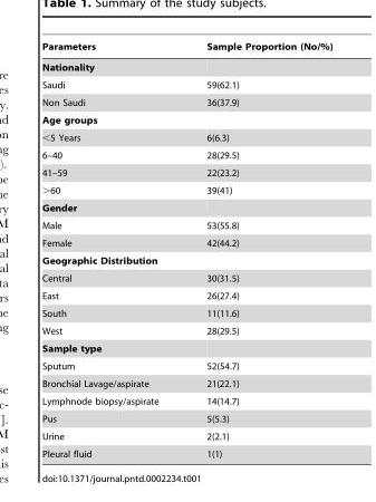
<table><thead><tr><td>Parameters</td><td>Sample Proportion (No/%)</td></tr></thead><tbody><tr><td colspan="2">Nationality</td></tr><tr><td>Saudi</td><td>59(62.1)</td></tr><tr><td>Non Saudi</td><td>36(37.9)</td></tr><tr><td colspan="2">Age groups</td></tr><tr><td>&lt;5 Years</td><td>6(6.3)</td></tr><tr><td>6–40</td><td>28(29.5)</td></tr><tr><td>41–59</td><td>22(23.2)</td></tr><tr><td>&gt;60</td><td>39(41)</td></tr><tr><td colspan="2">Gender</td></tr><tr><td>Male</td><td>53(55.8)</td></tr><tr><td>Female</td><td>42(44.2)</td></tr><tr><td colspan="2">Geographic Distribution</td></tr><tr><td>Central</td><td>30(31.5)</td></tr><tr><td>East</td><td>26(27.4)</td></tr><tr><td>South</td><td>11(11.6)</td></tr><tr><td>West</td><td>28(29.5)</td></tr><tr><td colspan="2">Sample type</td></tr><tr><td>Sputum</td><td>52(54.7)</td></tr><tr><td>Bronchial Lavage/aspirate</td><td>21(22.1)</td></tr><tr><td>Lymphnode biopsy/aspirate</td><td>14(14.7)</td></tr><tr><td>Pus</td><td>5(5.3)</td></tr><tr><td>Urine</td><td>2(2.1)</td></tr><tr><td>Pleural fluid</td><td>1(1)</td></tr></tbody></table>